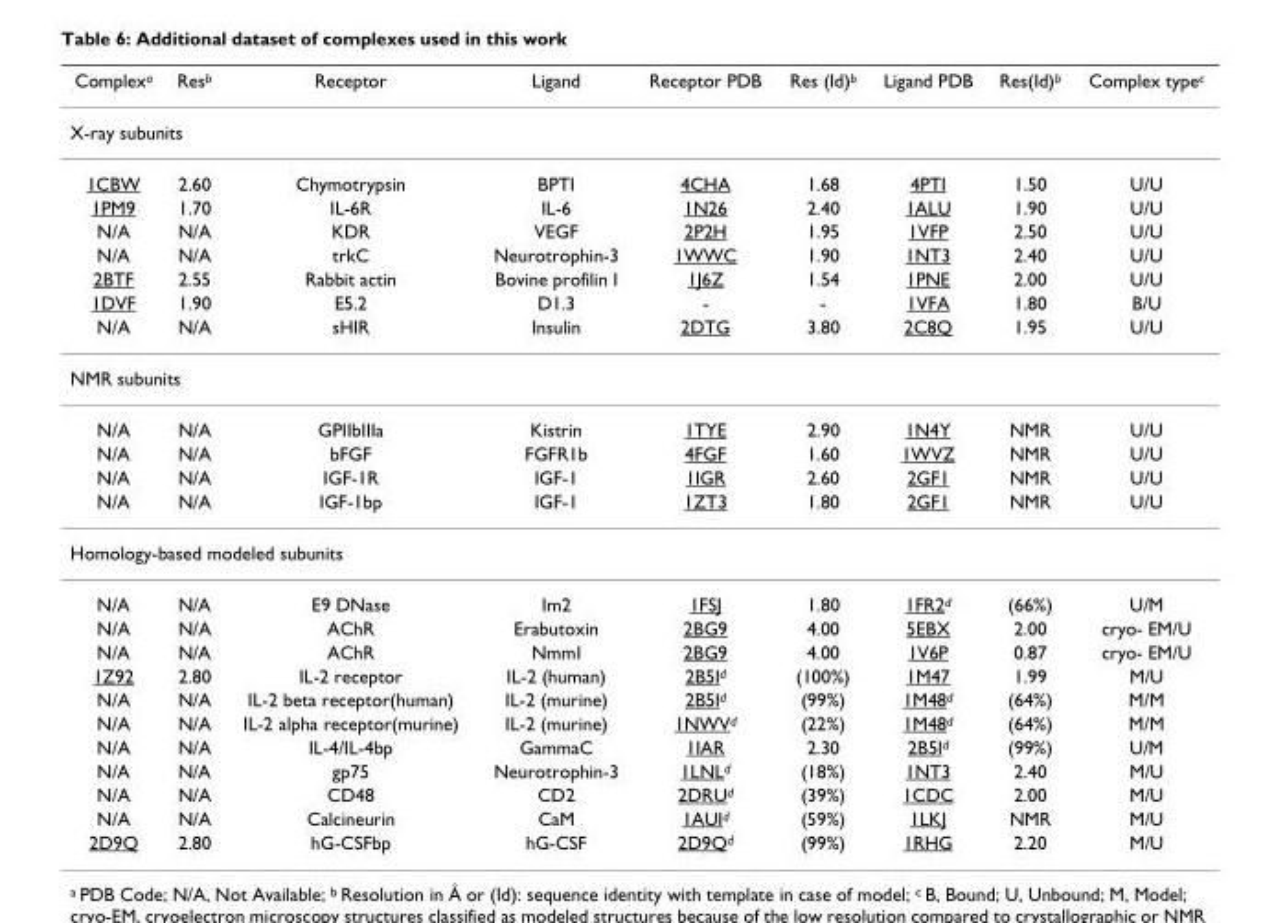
<table><thead><tr><td>Complex<sup>a</sup></td><td>Res<sup>b</sup></td><td>Receptor</td><td>Ligand</td><td>Receptor PDB</td><td>Res (Id)<sup>b</sup></td><td>Ligand PDB</td><td>Res(Id)<sup>b</sup></td><td>Complex type<sup>c</sup></td></tr></thead><tbody><tr><td colspan="9">X-ray subunits</td></tr><tr><td>1CBW</td><td>2.60</td><td>Chymotrypsin</td><td>BPTI</td><td>4CHA</td><td>1.68</td><td>4PTI</td><td>1.50</td><td>U/U</td></tr><tr><td>1PM9</td><td>1.70</td><td>IL-6R</td><td>IL-6</td><td>1N26</td><td>2.40</td><td>1ALU</td><td>1.90</td><td>U/U</td></tr><tr><td>N/A</td><td>N/A</td><td>KDR</td><td>VEGF</td><td>2P2H</td><td>1.95</td><td>1VFP</td><td>2.50</td><td>U/U</td></tr><tr><td>N/A</td><td>N/A</td><td>trkC</td><td>Neurotrophin-3</td><td>1WWC</td><td>1.90</td><td>1NT3</td><td>2.40</td><td>U/U</td></tr><tr><td>2BTF</td><td>2.55</td><td>Rabbit actin</td><td>Bovine profilin I</td><td>1J6Z</td><td>1.54</td><td>1PNE</td><td>2.00</td><td>U/U</td></tr><tr><td>1DVF</td><td>1.90</td><td>E5.2</td><td>D1.3</td><td>-</td><td>-</td><td>1VFA</td><td>1.80</td><td>B/U</td></tr><tr><td>N/A</td><td>N/A</td><td>sHIR</td><td>Insulin</td><td>2DTG</td><td>3.80</td><td>2C8Q</td><td>1.95</td><td>U/U</td></tr><tr><td colspan="9">NMR subunits</td></tr><tr><td>N/A</td><td>N/A</td><td>GPIIbIIIa</td><td>Kistrin</td><td>1TYE</td><td>2.90</td><td>1N4Y</td><td>NMR</td><td>U/U</td></tr><tr><td>N/A</td><td>N/A</td><td>bFGF</td><td>FGFR1b</td><td>4FGF</td><td>1.60</td><td>1WVZ</td><td>NMR</td><td>U/U</td></tr><tr><td>N/A</td><td>N/A</td><td>IGF-1R</td><td>IGF-1</td><td>1IGR</td><td>2.60</td><td>2GF1</td><td>NMR</td><td>U/U</td></tr><tr><td>N/A</td><td>N/A</td><td>IGF-1bp</td><td>IGF-1</td><td>1ZT3</td><td>1.80</td><td>2GF1</td><td>NMR</td><td>U/U</td></tr><tr><td colspan="9">Homology-based modeled subunits</td></tr><tr><td>N/A</td><td>N/A</td><td>E9 DNase</td><td>Im2</td><td>1FSJ</td><td>1.80</td><td>1FR2<sup>d</sup></td><td>(66%)</td><td>U/M</td></tr><tr><td>N/A</td><td>N/A</td><td>AChR</td><td>Erabutoxin</td><td>2BG9</td><td>4.00</td><td>5EBX</td><td>2.00</td><td>cryo- EM/U</td></tr><tr><td>N/A</td><td>N/A</td><td>AChR</td><td>NmmI</td><td>2BG9</td><td>4.00</td><td>1V6P</td><td>0.87</td><td>cryo- EM/U</td></tr><tr><td>1Z92</td><td>2.80</td><td>IL-2 receptor</td><td>IL-2 (human)</td><td>2B5I<sup>d</sup></td><td>(100%)</td><td>1M47</td><td>1.99</td><td>M/U</td></tr><tr><td>N/A</td><td>N/A</td><td>IL-2 beta receptor(human)</td><td>IL-2 (murine)</td><td>2B5I<sup>d</sup></td><td>(99%)</td><td>1M48<sup>d</sup></td><td>(64%)</td><td>M/M</td></tr><tr><td>N/A</td><td>N/A</td><td>IL-2 alpha receptor(murine)</td><td>IL-2 (murine)</td><td>1NWV<sup>d</sup></td><td>(22%)</td><td>1M48<sup>d</sup></td><td>(64%)</td><td>M/M</td></tr><tr><td>N/A</td><td>N/A</td><td>IL-4/IL-4bp</td><td>GammaC</td><td>1IAR</td><td>2.30</td><td>2B5I<sup>d</sup></td><td>(99%)</td><td>U/M</td></tr><tr><td>N/A</td><td>N/A</td><td>gp75</td><td>Neurotrophin-3</td><td>1LNL<sup>d</sup></td><td>(18%)</td><td>1NT3</td><td>2.40</td><td>M/U</td></tr><tr><td>N/A</td><td>N/A</td><td>CD48</td><td>CD2</td><td>2DRU<sup>d</sup></td><td>(39%)</td><td>1CDC</td><td>2.00</td><td>M/U</td></tr><tr><td>N/A</td><td>N/A</td><td>Calcineurin</td><td>CaM</td><td>1AUI<sup>d</sup></td><td>(59%)</td><td>1LKJ</td><td>NMR</td><td>M/U</td></tr><tr><td>2D9Q</td><td>2.80</td><td>hG-CSFbp</td><td>hG-CSF</td><td>2D9Q<sup>d</sup></td><td>(99%)</td><td>1RHG</td><td>2.20</td><td>M/U</td></tr></tbody></table>